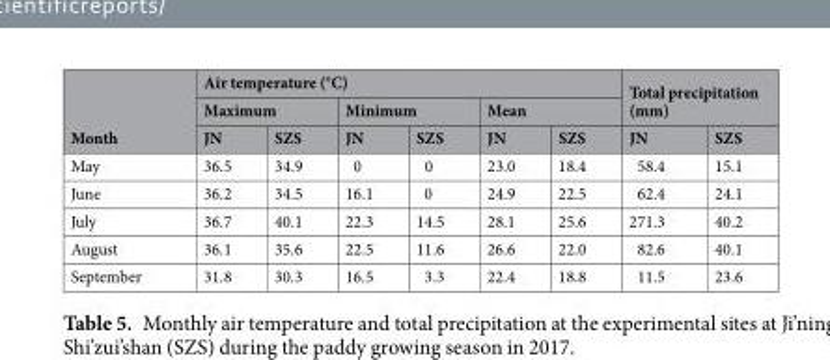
<table><thead><tr><td rowspan="3">Month</td><td colspan="6">Air temperature (°C)</td><td rowspan="2" colspan="2">Total precipitation (mm)</td></tr><tr><td colspan="2">Maximum</td><td colspan="2">Minimum</td><td colspan="2">Mean</td></tr><tr><td>JN</td><td>SZS</td><td>JN</td><td>SZS</td><td>JN</td><td>SZS</td><td>JN</td><td>SZS</td></tr></thead><tbody><tr><td>May</td><td>36.5</td><td>34.9</td><td>0</td><td>0</td><td>23.0</td><td>18.4</td><td>58.4</td><td>15.1</td></tr><tr><td>June</td><td>36.2</td><td>34.5</td><td>16.1</td><td>0</td><td>24.9</td><td>22.5</td><td>62.4</td><td>24.1</td></tr><tr><td>July</td><td>36.7</td><td>40.1</td><td>22.3</td><td>14.5</td><td>28.1</td><td>25.6</td><td>271.3</td><td>40.2</td></tr><tr><td>August</td><td>36.1</td><td>35.6</td><td>22.5</td><td>11.6</td><td>26.6</td><td>22.0</td><td>82.6</td><td>40.1</td></tr><tr><td>September</td><td>31.8</td><td>30.3</td><td>16.5</td><td>3.3</td><td>22.4</td><td>18.8</td><td>11.5</td><td>23.6</td></tr></tbody></table>